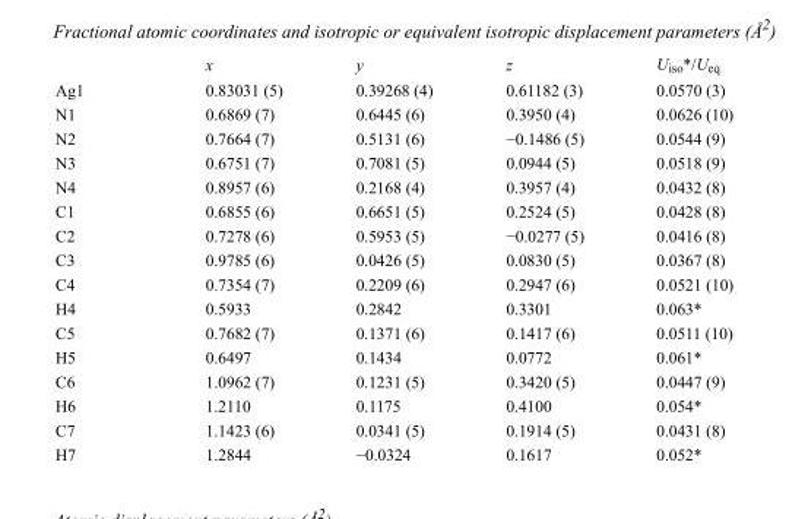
<table><thead><tr><td></td><td>x</td><td>y</td><td>z</td><td>U<sub>iso</sub>*/U<sub>eq</sub></td></tr></thead><tbody><tr><td>Ag1</td><td>0.83031 (5)</td><td>0.39268 (4)</td><td>0.61182 (3)</td><td>0.0570 (3)</td></tr><tr><td>N1</td><td>0.6869 (7)</td><td>0.6445 (6)</td><td>0.3950 (4)</td><td>0.0626 (10)</td></tr><tr><td>N2</td><td>0.7664 (7)</td><td>0.5131 (6)</td><td>−0.1486 (5)</td><td>0.0544 (9)</td></tr><tr><td>N3</td><td>0.6751 (7)</td><td>0.7081 (5)</td><td>0.0944 (5)</td><td>0.0518 (9)</td></tr><tr><td>N4</td><td>0.8957 (6)</td><td>0.2168 (4)</td><td>0.3957 (4)</td><td>0.0432 (8)</td></tr><tr><td>C1</td><td>0.6855 (6)</td><td>0.6651 (5)</td><td>0.2524 (5)</td><td>0.0428 (8)</td></tr><tr><td>C2</td><td>0.7278 (6)</td><td>0.5953 (5)</td><td>−0.0277 (5)</td><td>0.0416 (8)</td></tr><tr><td>C3</td><td>0.9785 (6)</td><td>0.0426 (5)</td><td>0.0830 (5)</td><td>0.0367 (8)</td></tr><tr><td>C4</td><td>0.7354 (7)</td><td>0.2209 (6)</td><td>0.2947 (6)</td><td>0.0521 (10)</td></tr><tr><td>H4</td><td>0.5933</td><td>0.2842</td><td>0.3301</td><td>0.063*</td></tr><tr><td>C5</td><td>0.7682 (7)</td><td>0.1371 (6)</td><td>0.1417 (6)</td><td>0.0511 (10)</td></tr><tr><td>H5</td><td>0.6497</td><td>0.1434</td><td>0.0772</td><td>0.061*</td></tr><tr><td>C6</td><td>1.0962 (7)</td><td>0.1231 (5)</td><td>0.3420 (5)</td><td>0.0447 (9)</td></tr><tr><td>H6</td><td>1.2110</td><td>0.1175</td><td>0.4100</td><td>0.054*</td></tr><tr><td>C7</td><td>1.1423 (6)</td><td>0.0341 (5)</td><td>0.1914 (5)</td><td>0.0431 (8)</td></tr><tr><td>H7</td><td>1.2844</td><td>−0.0324</td><td>0.1617</td><td>0.052*</td></tr></tbody></table>